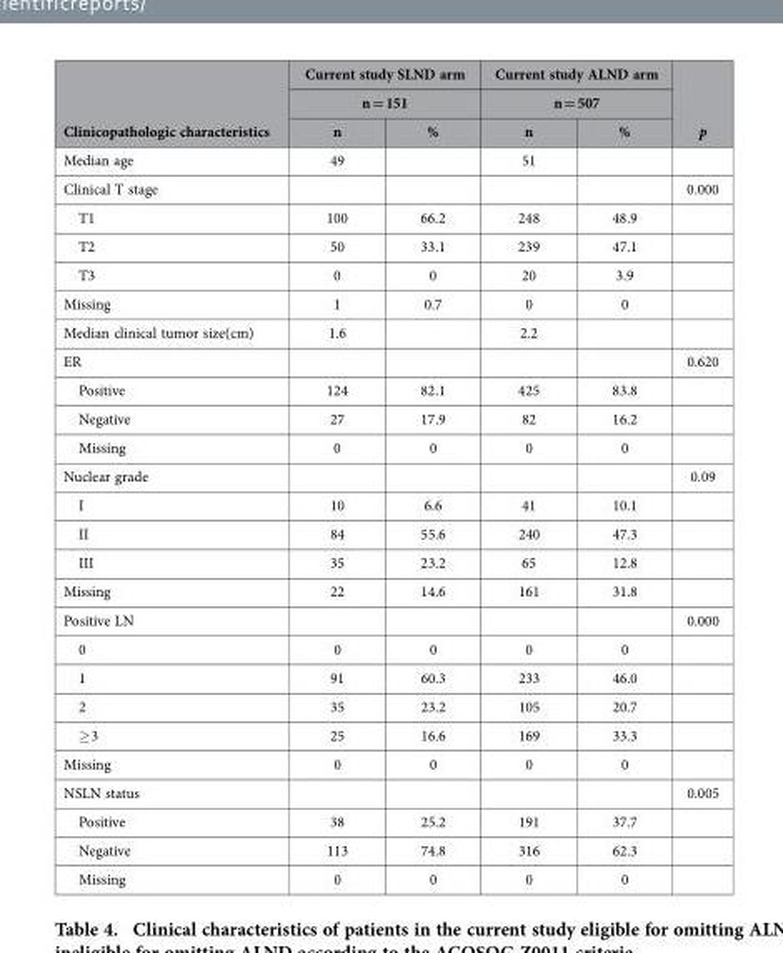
<table><thead><tr><td rowspan="3">Clinicopathologic characteristics</td><td rowspan="2" colspan="2">Current study SLND arm n = 151</td><td rowspan="2" colspan="2">Current study ALND arm n = 507</td><td rowspan="3">p</td></tr><tr></tr><tr><td>n</td><td>%</td><td>n</td><td>%</td></tr></thead><tbody><tr><td>Median age</td><td>49</td><td></td><td>51</td><td></td><td></td></tr><tr><td>Clinical T stage</td><td></td><td></td><td></td><td></td><td>0.000</td></tr><tr><td>T1</td><td>100</td><td>66.2</td><td>248</td><td>48.9</td><td></td></tr><tr><td>T2</td><td>50</td><td>33.1</td><td>239</td><td>47.1</td><td></td></tr><tr><td>T3</td><td>0</td><td>0</td><td>20</td><td>3.9</td><td></td></tr><tr><td>Missing</td><td>1</td><td>0.7</td><td>0</td><td>0</td><td></td></tr><tr><td>Median clinical tumor size(cm)</td><td>1.6</td><td></td><td>2.2</td><td></td><td></td></tr><tr><td>ER</td><td></td><td></td><td></td><td></td><td>0.620</td></tr><tr><td>Positive</td><td>124</td><td>82.1</td><td>425</td><td>83.8</td><td></td></tr><tr><td>Negative</td><td>27</td><td>17.9</td><td>82</td><td>16.2</td><td></td></tr><tr><td>Missing</td><td>0</td><td>0</td><td>0</td><td>0</td><td></td></tr><tr><td>Nuclear grade</td><td></td><td></td><td></td><td></td><td>0.09</td></tr><tr><td>I</td><td>10</td><td>6.6</td><td>41</td><td>10.1</td><td></td></tr><tr><td>II</td><td>84</td><td>55.6</td><td>240</td><td>47.3</td><td></td></tr><tr><td>III</td><td>35</td><td>23.2</td><td>65</td><td>12.8</td><td></td></tr><tr><td>Missing</td><td>22</td><td>14.6</td><td>161</td><td>31.8</td><td></td></tr><tr><td>Positive LN</td><td></td><td></td><td></td><td></td><td>0.000</td></tr><tr><td>0</td><td>0</td><td>0</td><td>0</td><td>0</td><td></td></tr><tr><td>1</td><td>91</td><td>60.3</td><td>233</td><td>46.0</td><td></td></tr><tr><td>2</td><td>35</td><td>23.2</td><td>105</td><td>20.7</td><td></td></tr><tr><td>≥ 3</td><td>25</td><td>16.6</td><td>169</td><td>33.3</td><td></td></tr><tr><td>Missing</td><td>0</td><td>0</td><td>0</td><td>0</td><td></td></tr><tr><td>NSLN status</td><td></td><td></td><td></td><td></td><td>0.005</td></tr><tr><td>Positive</td><td>38</td><td>25.2</td><td>191</td><td>37.7</td><td></td></tr><tr><td>Negative</td><td>113</td><td>74.8</td><td>316</td><td>62.3</td><td></td></tr><tr><td>Missing</td><td>0</td><td>0</td><td>0</td><td>0</td><td></td></tr></tbody></table>